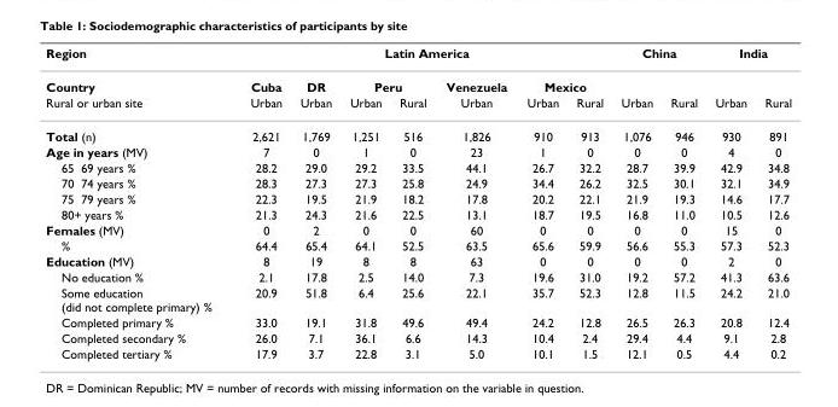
<table><thead><tr><td rowspan="3">Region Country Rural or urban site</td><td colspan="7">Latin America</td><td colspan="2">China</td><td colspan="2">India</td></tr><tr><td rowspan="2">Cuba Urban</td><td rowspan="2">DR Urban</td><td colspan="2">Peru</td><td rowspan="2">Venezuela Urban</td><td colspan="2">Mexico</td><td rowspan="2">Urban</td><td rowspan="2">Rural</td><td rowspan="2">Urban</td><td rowspan="2">Rural</td></tr><tr><td>Urban</td><td>Rural</td><td>Urban</td><td>Rural</td></tr></thead><tbody><tr><td>Total (n)</td><td>2,621</td><td>1,769</td><td>1,251</td><td>516</td><td>1,826</td><td>910</td><td>913</td><td>1,076</td><td>946</td><td>930</td><td>891</td></tr><tr><td>Age in years (MV)</td><td>7</td><td>0</td><td>1</td><td>0</td><td>23</td><td>1</td><td>0</td><td>0</td><td>0</td><td>4</td><td>0</td></tr><tr><td>65 69 years %</td><td>28.2</td><td>29.0</td><td>29.2</td><td>33.5</td><td>44.1</td><td>26.7</td><td>32.2</td><td>28.7</td><td>39.9</td><td>42.9</td><td>34.8</td></tr><tr><td>70 74 years %</td><td>28.3</td><td>27.3</td><td>27.3</td><td>25.8</td><td>24.9</td><td>34.4</td><td>26.2</td><td>32.5</td><td>30.1</td><td>32.1</td><td>34.9</td></tr><tr><td>75 79 years %</td><td>22.3</td><td>19.5</td><td>21.9</td><td>18.2</td><td>17.8</td><td>20.2</td><td>22.1</td><td>21.9</td><td>19.3</td><td>14.6</td><td>17.7</td></tr><tr><td>80+ years %</td><td>21.3</td><td>24.3</td><td>21.6</td><td>22.5</td><td>13.1</td><td>18.7</td><td>19.5</td><td>16.8</td><td>11.0</td><td>10.5</td><td>12.6</td></tr><tr><td>Females (MV)</td><td>0</td><td>2</td><td>0</td><td>0</td><td>60</td><td>0</td><td>0</td><td>0</td><td>0</td><td>15</td><td>0</td></tr><tr><td>%</td><td>64.4</td><td>65.4</td><td>64.1</td><td>52.5</td><td>63.5</td><td>65.6</td><td>59.9</td><td>56.6</td><td>55.3</td><td>57.3</td><td>52.3</td></tr><tr><td>Education (MV)</td><td>8</td><td>19</td><td>8</td><td>8</td><td>63</td><td>0</td><td>0</td><td>0</td><td>0</td><td>2</td><td>0</td></tr><tr><td>No education %</td><td>2.1</td><td>17.8</td><td>2.5</td><td>14.0</td><td>7.3</td><td>19.6</td><td>31.0</td><td>19.2</td><td>57.2</td><td>41.3</td><td>63.6</td></tr><tr><td>Some education (did not complete primary) %</td><td>20.9</td><td>51.8</td><td>6.4</td><td>25.6</td><td>22.1</td><td>35.7</td><td>52.3</td><td>12.8</td><td>11.5</td><td>24.2</td><td>21.0</td></tr><tr><td>Completed primary %</td><td>33.0</td><td>19.1</td><td>31.8</td><td>49.6</td><td>49.4</td><td>24.2</td><td>12.8</td><td>26.5</td><td>26.3</td><td>20.8</td><td>12.4</td></tr><tr><td>Completed secondary %</td><td>26.0</td><td>7.1</td><td>36.1</td><td>6.6</td><td>14.3</td><td>10.4</td><td>2.4</td><td>29.4</td><td>4.4</td><td>9.1</td><td>2.8</td></tr><tr><td>Completed tertiary %</td><td>17.9</td><td>3.7</td><td>22.8</td><td>3.1</td><td>5.0</td><td>10.1</td><td>1.5</td><td>12.1</td><td>0.5</td><td>4.4</td><td>0.2</td></tr></tbody></table>